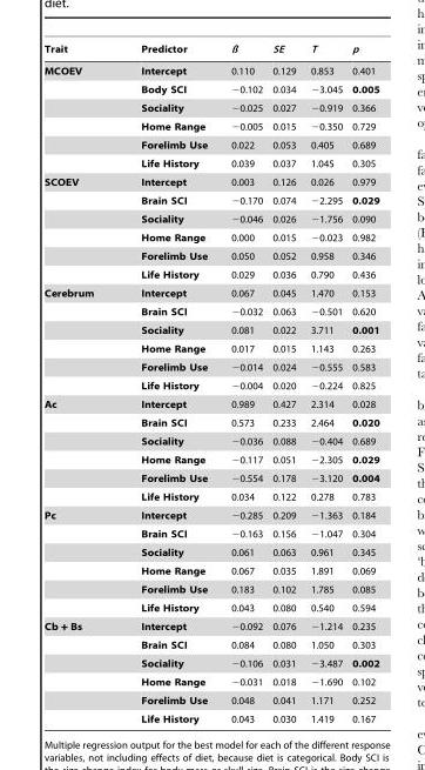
<table><thead><tr><td>Trait</td><td>Predictor</td><td>ß</td><td>SE</td><td>T</td><td>p</td></tr></thead><tbody><tr><td rowspan="6">MCOEV</td><td>Intercept</td><td>0.110</td><td>0.129</td><td>0.853</td><td>0.401</td></tr><tr><td>Body SCI</td><td>−0.102</td><td>0.034</td><td>−3.045</td><td>0.005</td></tr><tr><td>Sociality</td><td>−0.025</td><td>0.027</td><td>−0.919</td><td>0.366</td></tr><tr><td>Home Range</td><td>−0.005</td><td>0.015</td><td>−0.350</td><td>0.729</td></tr><tr><td>Forelimb Use</td><td>0.022</td><td>0.053</td><td>0.405</td><td>0.689</td></tr><tr><td>Life History</td><td>0.039</td><td>0.037</td><td>1.045</td><td>0.305</td></tr><tr><td rowspan="6">SCOEV</td><td>Intercept</td><td>0.003</td><td>0.126</td><td>0.026</td><td>0.979</td></tr><tr><td>Brain SCI</td><td>−0.170</td><td>0.074</td><td>−2.295</td><td>0.029</td></tr><tr><td>Sociality</td><td>−0.046</td><td>0.026</td><td>−1.756</td><td>0.090</td></tr><tr><td>Home Range</td><td>0.000</td><td>0.015</td><td>−0.023</td><td>0.982</td></tr><tr><td>Forelimb Use</td><td>0.050</td><td>0.052</td><td>0.958</td><td>0.346</td></tr><tr><td>Life History</td><td>0.029</td><td>0.036</td><td>0.790</td><td>0.436</td></tr><tr><td rowspan="6">Cerebrum</td><td>Intercept</td><td>0.067</td><td>0.045</td><td>1.470</td><td>0.153</td></tr><tr><td>Brain SCI</td><td>−0.032</td><td>0.063</td><td>−0.501</td><td>0.620</td></tr><tr><td>Sociality</td><td>0.081</td><td>0.022</td><td>3.711</td><td>0.001</td></tr><tr><td>Home Range</td><td>0.017</td><td>0.015</td><td>1.143</td><td>0.263</td></tr><tr><td>Forelimb Use</td><td>−0.014</td><td>0.024</td><td>−0.555</td><td>0.583</td></tr><tr><td>Life History</td><td>−0.004</td><td>0.020</td><td>−0.224</td><td>0.825</td></tr><tr><td rowspan="6">Ac</td><td>Intercept</td><td>0.989</td><td>0.427</td><td>2.314</td><td>0.028</td></tr><tr><td>Brain SCI</td><td>0.573</td><td>0.233</td><td>2.464</td><td>0.020</td></tr><tr><td>Sociality</td><td>−0.036</td><td>0.088</td><td>−0.404</td><td>0.689</td></tr><tr><td>Home Range</td><td>−0.117</td><td>0.051</td><td>−2.305</td><td>0.029</td></tr><tr><td>Forelimb Use</td><td>−0.554</td><td>0.178</td><td>−3.120</td><td>0.004</td></tr><tr><td>Life History</td><td>0.034</td><td>0.122</td><td>0.278</td><td>0.783</td></tr><tr><td rowspan="6">Pc</td><td>Intercept</td><td>−0.285</td><td>0.209</td><td>−1.363</td><td>0.184</td></tr><tr><td>Brain SCI</td><td>−0.163</td><td>0.156</td><td>−1.047</td><td>0.304</td></tr><tr><td>Sociality</td><td>0.061</td><td>0.063</td><td>0.961</td><td>0.345</td></tr><tr><td>Home Range</td><td>0.067</td><td>0.035</td><td>1.891</td><td>0.069</td></tr><tr><td>Forelimb Use</td><td>0.183</td><td>0.102</td><td>1.785</td><td>0.085</td></tr><tr><td>Life History</td><td>0.043</td><td>0.080</td><td>0.540</td><td>0.594</td></tr><tr><td rowspan="6">Cb + Bs</td><td>Intercept</td><td>−0.092</td><td>0.076</td><td>−1.214</td><td>0.235</td></tr><tr><td>Brain SCI</td><td>0.084</td><td>0.080</td><td>1.050</td><td>0.303</td></tr><tr><td>Sociality</td><td>−0.106</td><td>0.031</td><td>−3.487</td><td>0.002</td></tr><tr><td>Home Range</td><td>−0.031</td><td>0.018</td><td>−1.690</td><td>0.102</td></tr><tr><td>Forelimb Use</td><td>0.048</td><td>0.041</td><td>1.171</td><td>0.252</td></tr><tr><td>Life History</td><td>0.043</td><td>0.030</td><td>1.419</td><td>0.167</td></tr></tbody></table>